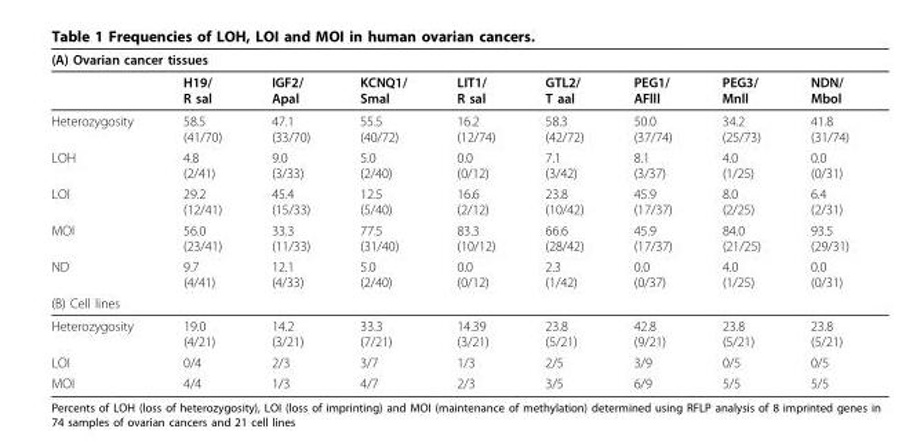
<table><thead><tr><td colspan="9">(A) Ovarian cancer tissues</td></tr><tr><td></td><td>H19/ R sal</td><td>IGF2/ Apal</td><td>KCNQ1/ Smal</td><td>LIT1/ R sal</td><td>GTL2/ T aal</td><td>PEG1/ AFlll</td><td>PEG3/ Mnll</td><td>NDN/ Mbol</td></tr></thead><tbody><tr><td>Heterozygosity</td><td>58.5 (41/70)</td><td>47.1 (33/70)</td><td>55.5 (40/72)</td><td>16.2 (12/74)</td><td>58.3 (42/72)</td><td>50.0 (37/74)</td><td>34.2 (25/73)</td><td>41.8 (31/74)</td></tr><tr><td>LOH</td><td>4.8 (2/41)</td><td>9.0 (3/33)</td><td>5.0 (2/40)</td><td>0.0 (0/12)</td><td>7.1 (3/42)</td><td>8.1 (3/37)</td><td>4.0 (1/25)</td><td>0.0 (0/31)</td></tr><tr><td>LOI</td><td>29.2 (12/41)</td><td>45.4 (15/33)</td><td>12.5 (5/40)</td><td>16.6 (2/12)</td><td>23.8 (10/42)</td><td>45.9 (17/37)</td><td>8.0 (2/25)</td><td>6.4 (2/31)</td></tr><tr><td>MOI</td><td>56.0 (23/41)</td><td>33.3 (11/33)</td><td>77.5 (31/40)</td><td>83.3 (10/12)</td><td>66.6 (28/42)</td><td>45.9 (17/37)</td><td>84.0 (21/25)</td><td>93.5 (29/31)</td></tr><tr><td>ND</td><td>9.7 (4/41)</td><td>12.1 (4/33)</td><td>5.0 (2/40)</td><td>0.0 (0/12)</td><td>2.3 (1/42)</td><td>0.0 (0/37)</td><td>4.0 (1/25)</td><td>0.0 (0/31)</td></tr><tr><td colspan="9">(B) Cell lines</td></tr><tr><td>Heterozygosity</td><td>19.0 (4/21)</td><td>14.2 (3/21)</td><td>33.3 (7/21)</td><td>14.39 (3/21)</td><td>23.8 (5/21)</td><td>42.8 (9/21)</td><td>23.8 (5/21)</td><td>23.8 (5/21)</td></tr><tr><td>LOI</td><td>0/4</td><td>2/3</td><td>3/7</td><td>1/3</td><td>2/5</td><td>3/9</td><td>0/5</td><td>0/5</td></tr><tr><td>MOI</td><td>4/4</td><td>1/3</td><td>4/7</td><td>2/3</td><td>3/5</td><td>6/9</td><td>5/5</td><td>5/5</td></tr></tbody></table>